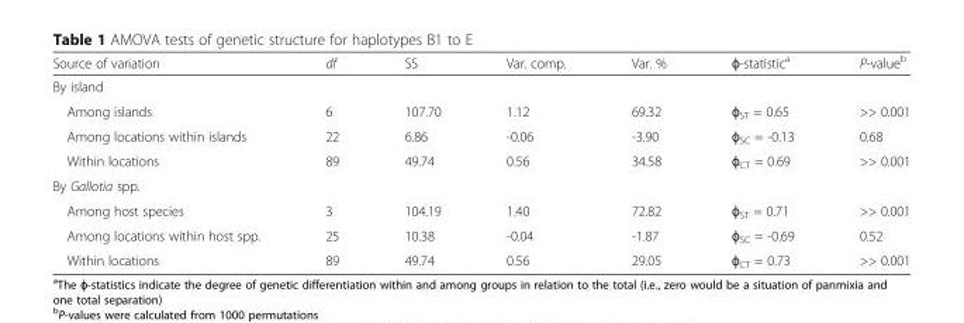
<table><thead><tr><td>Source of variation</td><td>df</td><td>SS</td><td>Var. comp.</td><td>Var. %</td><td>ɸ-statistic<sup>a</sup></td><td>P-value<sup>b</sup></td></tr></thead><tbody><tr><td colspan="7">By island</td></tr><tr><td>Among islands</td><td>6</td><td>107.70</td><td>1.12</td><td>69.32</td><td>ɸ<sub>ST</sub> = 0.65</td><td>&gt;&gt; 0.001</td></tr><tr><td>Among locations within islands</td><td>22</td><td>6.86</td><td>-0.06</td><td>-3.90</td><td>ɸ<sub>SC</sub> = -0.13</td><td>0.68</td></tr><tr><td>Within locations</td><td>89</td><td>49.74</td><td>0.56</td><td>34.58</td><td>ɸ<sub>CT</sub> = 0.69</td><td>&gt;&gt; 0.001</td></tr><tr><td colspan="7">By Gallotia spp.</td></tr><tr><td>Among host species</td><td>3</td><td>104.19</td><td>1.40</td><td>72.82</td><td>ɸ<sub>ST</sub> = 0.71</td><td>&gt;&gt; 0.001</td></tr><tr><td>Among locations within host spp.</td><td>25</td><td>10.38</td><td>-0.04</td><td>-1.87</td><td>ɸ<sub>SC</sub> = -0.69</td><td>0.52</td></tr><tr><td>Within locations</td><td>89</td><td>49.74</td><td>0.56</td><td>29.05</td><td>ɸ<sub>CT</sub> = 0.73</td><td>&gt;&gt; 0.001</td></tr></tbody></table>